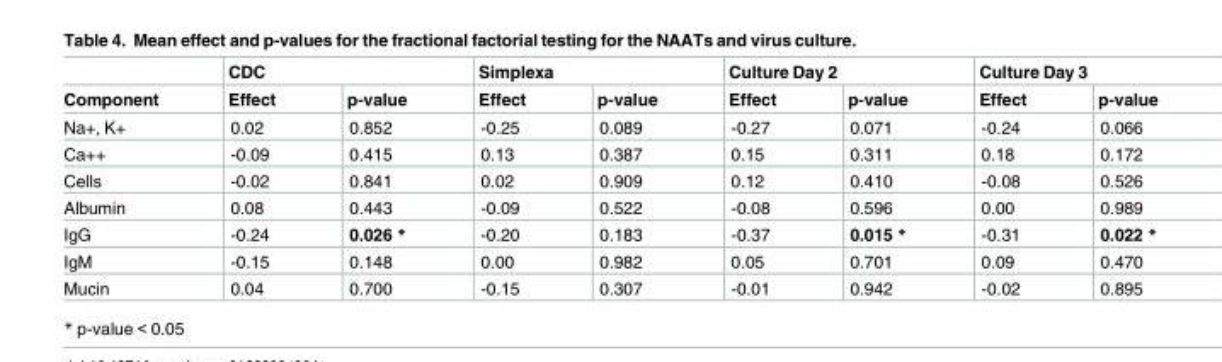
<table><thead><tr><td rowspan="2">Component</td><td colspan="2">CDC</td><td colspan="2">Simplexa</td><td colspan="2">Culture Day 2</td><td colspan="2">Culture Day 3</td></tr><tr><td>Effect</td><td>p-value</td><td>Effect</td><td>p-value</td><td>Effect</td><td>p-value</td><td>Effect</td><td>p-value</td></tr></thead><tbody><tr><td>Na+, K+</td><td>0.02</td><td>0.852</td><td>-0.25</td><td>0.089</td><td>-0.27</td><td>0.071</td><td>-0.24</td><td>0.066</td></tr><tr><td>Ca++</td><td>-0.09</td><td>0.415</td><td>0.13</td><td>0.387</td><td>0.15</td><td>0.311</td><td>0.18</td><td>0.172</td></tr><tr><td>Cells</td><td>-0.02</td><td>0.841</td><td>0.02</td><td>0.909</td><td>0.12</td><td>0.410</td><td>-0.08</td><td>0.526</td></tr><tr><td>Albumin</td><td>0.08</td><td>0.443</td><td>-0.09</td><td>0.522</td><td>-0.08</td><td>0.596</td><td>0.00</td><td>0.989</td></tr><tr><td>IgG</td><td>-0.24</td><td>0.026 *</td><td>-0.20</td><td>0.183</td><td>-0.37</td><td>0.015 *</td><td>-0.31</td><td>0.022 *</td></tr><tr><td>IgM</td><td>-0.15</td><td>0.148</td><td>0.00</td><td>0.982</td><td>0.05</td><td>0.701</td><td>0.09</td><td>0.470</td></tr><tr><td>Mucin</td><td>0.04</td><td>0.700</td><td>-0.15</td><td>0.307</td><td>-0.01</td><td>0.942</td><td>-0.02</td><td>0.895</td></tr></tbody></table>